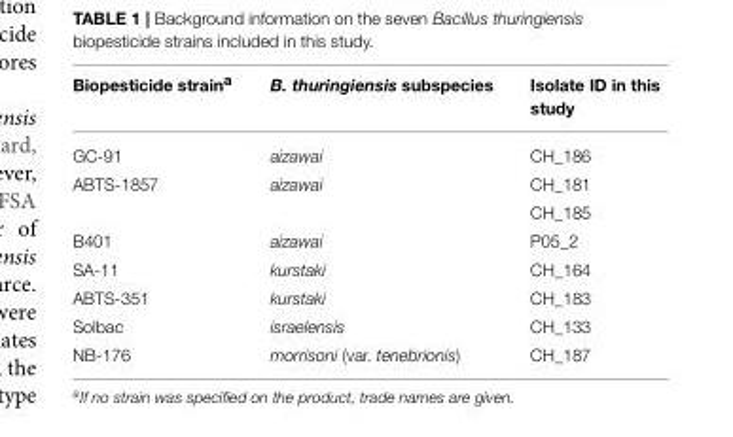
<table><thead><tr><td>Biopesticide strain<sup>a</sup></td><td>B. thuringiensis subspecies</td><td>Isolate ID in this study</td></tr></thead><tbody><tr><td>GC-91</td><td>aizawai</td><td>CH_186</td></tr><tr><td rowspan="2">ABTS-1857</td><td>aizawai</td><td>CH_181</td></tr><tr><td></td><td>CH_185</td></tr><tr><td>B401</td><td>aizawai</td><td>P05_2</td></tr><tr><td>SA-11</td><td>kurstaki</td><td>CH_164</td></tr><tr><td>ABTS-351</td><td>kurstaki</td><td>CH_183</td></tr><tr><td>Solbac</td><td>israelensis</td><td>CH_133</td></tr><tr><td>NB-176</td><td>morrisoni (var. tenebrionis)</td><td>CH_187</td></tr></tbody></table>